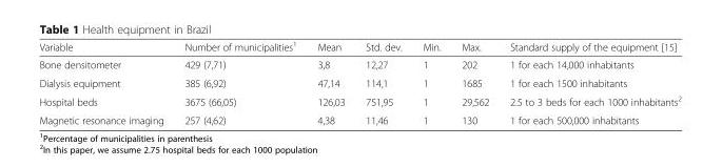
<table><thead><tr><td>Variable</td><td>Number of municipalities<sup>1</sup></td><td>Mean</td><td>Std. dev.</td><td>Min.</td><td>Max.</td><td>Standard supply of the equipment [15]</td></tr></thead><tbody><tr><td>Bone densitometer</td><td>429 (7,71)</td><td>3,8</td><td>12,27</td><td>1</td><td>202</td><td>1 for each 14,000 inhabitants</td></tr><tr><td>Dialysis equipment</td><td>385 (6,92)</td><td>47,14</td><td>114,1</td><td>1</td><td>1685</td><td>1 for each 1500 inhabitants</td></tr><tr><td>Hospital beds</td><td>3675 (66,05)</td><td>126,03</td><td>751,95</td><td>1</td><td>29,562</td><td>2.5 to 3 beds for each 1000 inhabitants<sup>2</sup></td></tr><tr><td>Magnetic resonance imaging</td><td>257 (4,62)</td><td>4,38</td><td>11,46</td><td>1</td><td>130</td><td>1 for each 500,000 inhabitants</td></tr></tbody></table>